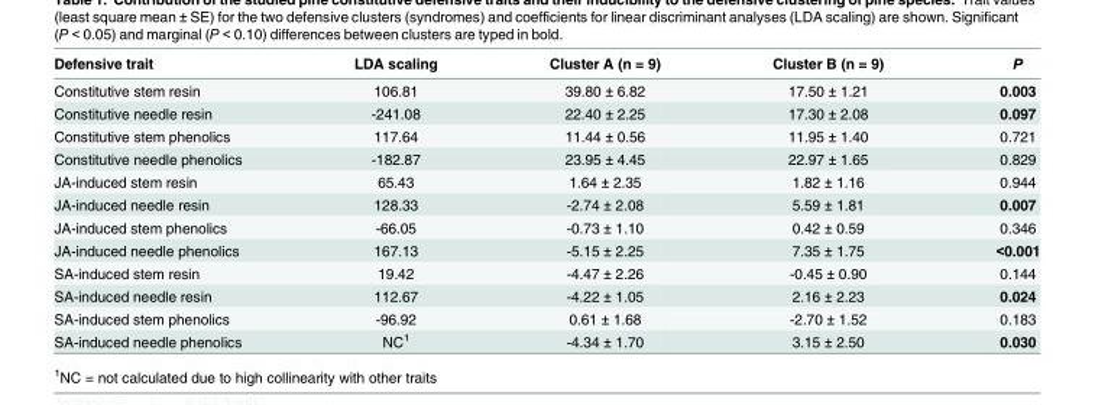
<table><thead><tr><td>Defensive trait</td><td>LDA scaling</td><td>Cluster A (n = 9)</td><td>Cluster B (n = 9)</td><td>P</td></tr></thead><tbody><tr><td>Constitutive stem resin</td><td>106.81</td><td>39.80 ± 6.82</td><td>17.50 ± 1.21</td><td>0.003</td></tr><tr><td>Constitutive needle resin</td><td>-241.08</td><td>22.40 ± 2.25</td><td>17.30 ± 2.08</td><td>0.097</td></tr><tr><td>Constitutive stem phenolics</td><td>117.64</td><td>11.44 ± 0.56</td><td>11.95 ± 1.40</td><td>0.721</td></tr><tr><td>Constitutive needle phenolics</td><td>-182.87</td><td>23.95 ± 4.45</td><td>22.97 ± 1.65</td><td>0.829</td></tr><tr><td>JA-induced stem resin</td><td>65.43</td><td>1.64 ± 2.35</td><td>1.82 ± 1.16</td><td>0.944</td></tr><tr><td>JA-induced needle resin</td><td>128.33</td><td>-2.74 ± 2.08</td><td>5.59 ± 1.81</td><td>0.007</td></tr><tr><td>JA-induced stem phenolics</td><td>-66.05</td><td>-0.73 ± 1.10</td><td>0.42 ± 0.59</td><td>0.346</td></tr><tr><td>JA-induced needle phenolics</td><td>167.13</td><td>-5.15 ± 2.25</td><td>7.35 ± 1.75</td><td>&lt;0.001</td></tr><tr><td>SA-induced stem resin</td><td>19.42</td><td>-4.47 ± 2.26</td><td>-0.45 ± 0.90</td><td>0.144</td></tr><tr><td>SA-induced needle resin</td><td>112.67</td><td>-4.22 ± 1.05</td><td>2.16 ± 2.23</td><td>0.024</td></tr><tr><td>SA-induced stem phenolics</td><td>-96.92</td><td>0.61 ± 1.68</td><td>-2.70 ± 1.52</td><td>0.183</td></tr><tr><td>SA-induced needle phenolics</td><td>NC<sup>1</sup></td><td>-4.34 ± 1.70</td><td>3.15 ± 2.50</td><td>0.030</td></tr></tbody></table>